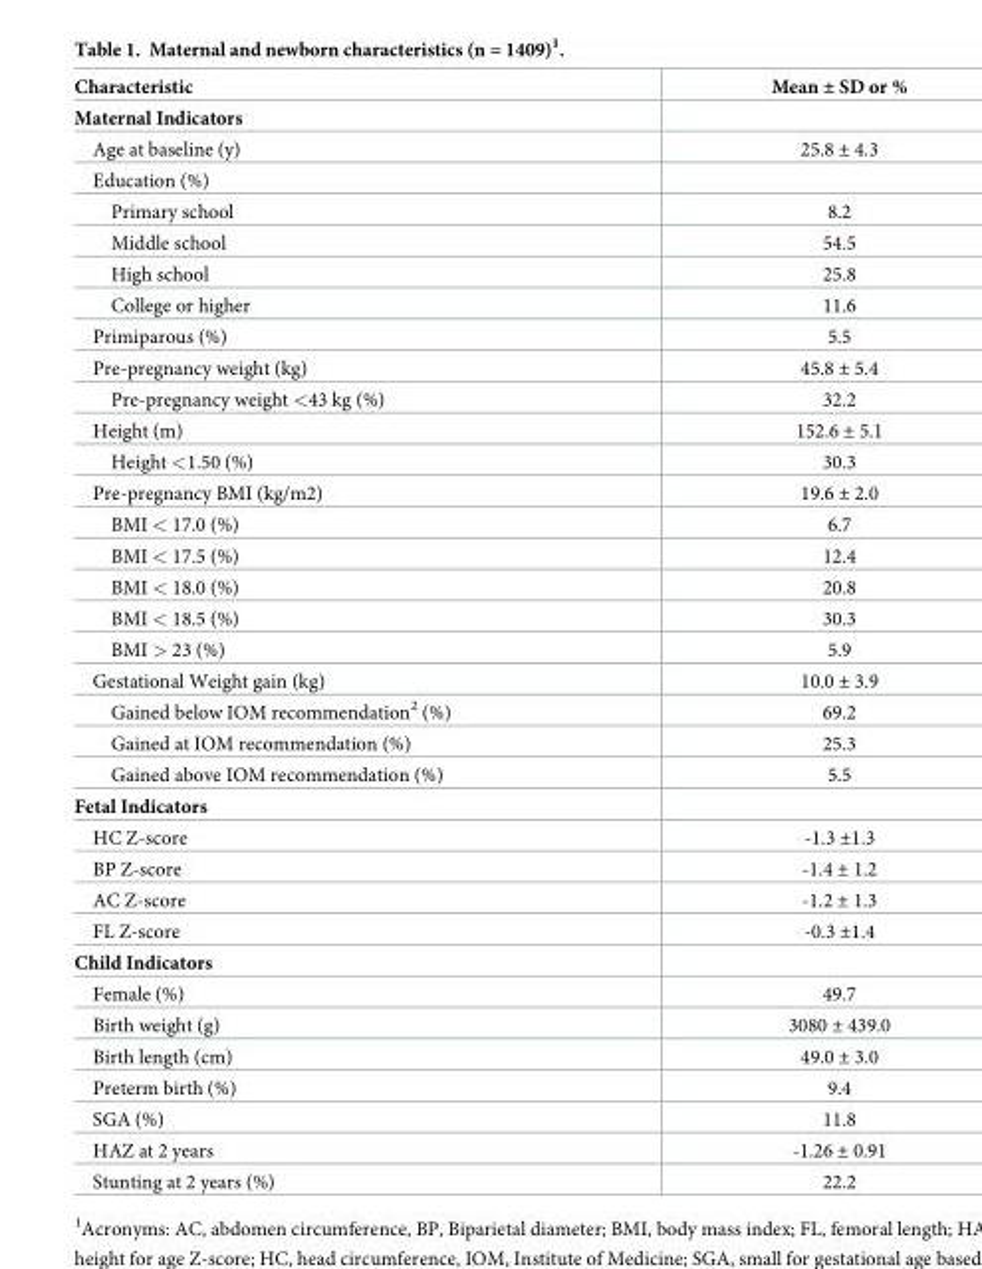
<table><thead><tr><td>Characteristic</td><td>Mean ± SD or %</td></tr></thead><tbody><tr><td colspan="2">Maternal Indicators</td></tr><tr><td>Age at baseline (y)</td><td>25.8 ± 4.3</td></tr><tr><td colspan="2">Education (%)</td></tr><tr><td>Primary school</td><td>8.2</td></tr><tr><td>Middle school</td><td>54.5</td></tr><tr><td>High school</td><td>25.8</td></tr><tr><td>College or higher</td><td>11.6</td></tr><tr><td>Primiparous (%)</td><td>5.5</td></tr><tr><td>Pre-pregnancy weight (kg)</td><td>45.8 ± 5.4</td></tr><tr><td>Pre-pregnancy weight &lt;43 kg (%)</td><td>32.2</td></tr><tr><td>Height (m)</td><td>152.6 ± 5.1</td></tr><tr><td>Height &lt;1.50 (%)</td><td>30.3</td></tr><tr><td>Pre-pregnancy BMI (kg/m2)</td><td>19.6 ± 2.0</td></tr><tr><td>BMI &lt; 17.0 (%)</td><td>6.7</td></tr><tr><td>BMI &lt; 17.5 (%)</td><td>12.4</td></tr><tr><td>BMI &lt; 18.0 (%)</td><td>20.8</td></tr><tr><td>BMI &lt; 18.5 (%)</td><td>30.3</td></tr><tr><td>BMI &gt; 23 (%)</td><td>5.9</td></tr><tr><td>Gestational Weight gain (kg)</td><td>10.0 ± 3.9</td></tr><tr><td>Gained below IOM recommendation<sup>2</sup> (%)</td><td>69.2</td></tr><tr><td>Gained at IOM recommendation (%)</td><td>25.3</td></tr><tr><td>Gained above IOM recommendation (%)</td><td>5.5</td></tr><tr><td colspan="2">Fetal Indicators</td></tr><tr><td>HC Z-score</td><td>-1.3 ±1.3</td></tr><tr><td>BP Z-score</td><td>-1.4 ± 1.2</td></tr><tr><td>AC Z-score</td><td>-1.2 ± 1.3</td></tr><tr><td>FL Z-score</td><td>-0.3 ±1.4</td></tr><tr><td colspan="2">Child Indicators</td></tr><tr><td>Female (%)</td><td>49.7</td></tr><tr><td>Birth weight (g)</td><td>3080 ± 439.0</td></tr><tr><td>Birth length (cm)</td><td>49.0 ± 3.0</td></tr><tr><td>Preterm birth (%)</td><td>9.4</td></tr><tr><td>SGA (%)</td><td>11.8</td></tr><tr><td>HAZ at 2 years</td><td>-1.26 ± 0.91</td></tr><tr><td>Stunting at 2 years (%)</td><td>22.2</td></tr></tbody></table>